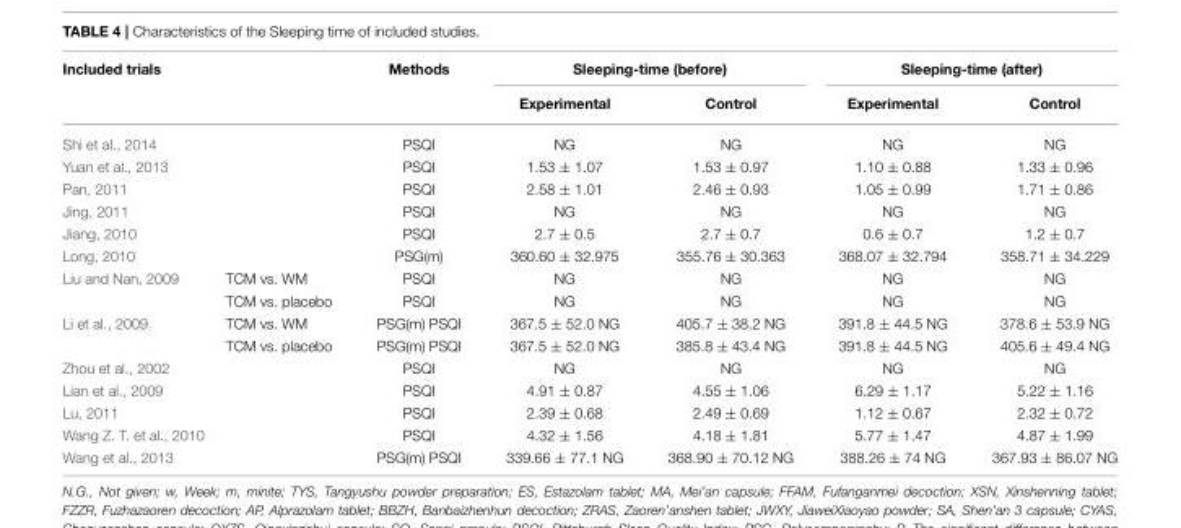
<table><thead><tr><td colspan="2">Included trials</td><td rowspan="2">Methods</td><td colspan="2">Sleeping-time (before)</td><td colspan="2">Sleeping-time (after)</td></tr><tr><td></td><td></td><td>Experimental</td><td>Control</td><td>Experimental</td><td>Control</td></tr></thead><tbody><tr><td colspan="2">Shi et al., 2014</td><td>PSQI</td><td>NG</td><td>NG</td><td>NG</td><td>NG</td></tr><tr><td colspan="2">Yuan et al., 2013</td><td>PSQI</td><td>1.53 ± 1.07</td><td>1.53 ± 0.97</td><td>1.10 ± 0.88</td><td>1.33 ± 0.96</td></tr><tr><td colspan="2">Pan, 2011</td><td>PSQI</td><td>2.58 ± 1.01</td><td>2.46 ± 0.93</td><td>1.05 ± 0.99</td><td>1.71 ± 0.86</td></tr><tr><td colspan="2">Jing, 2011</td><td>PSQI</td><td>NG</td><td>NG</td><td>NG</td><td>NG</td></tr><tr><td colspan="2">Jiang, 2010</td><td>PSQI</td><td>2.7 ± 0.5</td><td>2.7 ± 0.7</td><td>0.6 ± 0.7</td><td>1.2 ± 0.7</td></tr><tr><td colspan="2">Long, 2010</td><td>PSG(m)</td><td>360.60 ± 32.975</td><td>355.76 ± 30.363</td><td>368.07 ± 32.794</td><td>358.71 ± 34.229</td></tr><tr><td rowspan="2">Liu and Nan, 2009</td><td>TCM vs. WM</td><td>PSQI</td><td>NG</td><td>NG</td><td>NG</td><td>NG</td></tr><tr><td>TCM vs. placebo</td><td>PSQI</td><td>NG</td><td>NG</td><td>NG</td><td>NG</td></tr><tr><td rowspan="2">Li et al., 2009</td><td>TCM vs. WM</td><td>PSG(m) PSQI</td><td>367.5 ± 52.0 NG</td><td>405.7 ± 38.2 NG</td><td>391.8 ± 44.5 NG</td><td>378.6 ± 53.9 NG</td></tr><tr><td>TCM vs. placebo</td><td>PSG(m) PSQI</td><td>367.5 ± 52.0 NG</td><td>385.8 ± 43.4 NG</td><td>391.8 ± 44.5 NG</td><td>405.6 ± 49.4 NG</td></tr><tr><td colspan="2">Zhou et al., 2002</td><td>PSQI</td><td>NG</td><td>NG</td><td>NG</td><td>NG</td></tr><tr><td colspan="2">Lian et al., 2009</td><td>PSQI</td><td>4.91 ± 0.87</td><td>4.55 ± 1.06</td><td>6.29 ± 1.17</td><td>5.22 ± 1.16</td></tr><tr><td colspan="2">Lu, 2011</td><td>PSQI</td><td>2.39 ± 0.68</td><td>2.49 ± 0.69</td><td>1.12 ± 0.67</td><td>2.32 ± 0.72</td></tr><tr><td colspan="2">Wang Z. T. et al., 2010</td><td>PSQI</td><td>4.32 ± 1.56</td><td>4.18 ± 1.81</td><td>5.77 ± 1.47</td><td>4.87 ± 1.99</td></tr><tr><td colspan="2">Wang et al., 2013</td><td>PSG(m) PSQI</td><td>339.66 ± 77.1 NG</td><td>368.90 ± 70.12 NG</td><td>388.26 ± 74 NG</td><td>367.93 ± 86.07 NG</td></tr></tbody></table>